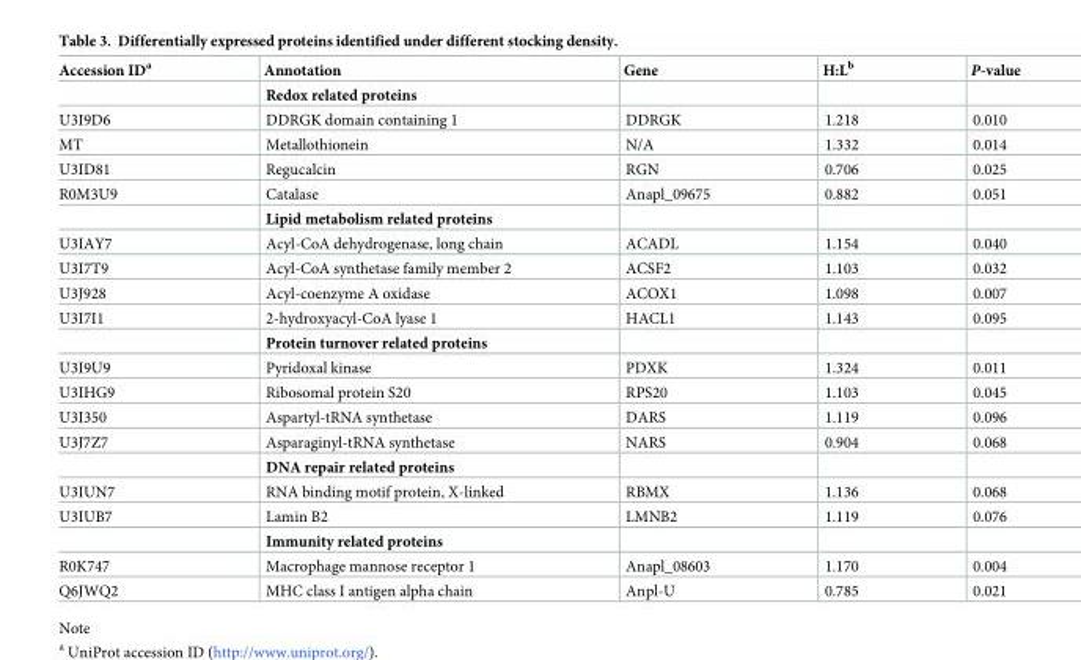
<table><thead><tr><td>Accession ID<sup>a</sup></td><td>Annotation</td><td>Gene</td><td>H:L<sup>b</sup></td><td>P-value</td></tr></thead><tbody><tr><td></td><td>Redox related proteins</td><td></td><td></td><td></td></tr><tr><td>U3I9D6</td><td>DDRGK domain containing 1</td><td>DDRGK</td><td>1.218</td><td>0.010</td></tr><tr><td>MT</td><td>Metallothionein</td><td>N/A</td><td>1.332</td><td>0.014</td></tr><tr><td>U3ID81</td><td>Regucalcin</td><td>RGN</td><td>0.706</td><td>0.025</td></tr><tr><td rowspan="2">R0M3U9</td><td>Catalase</td><td>Anapl_09675</td><td>0.882</td><td>0.051</td></tr><tr><td>Lipid metabolism related proteins</td><td></td><td></td><td></td></tr><tr><td>U3IAY7</td><td>Acyl-CoA dehydrogenase, long chain</td><td>ACADL</td><td>1.154</td><td>0.040</td></tr><tr><td>U3I7T9</td><td>Acyl-CoA synthetase family member 2</td><td>ACSF2</td><td>1.103</td><td>0.032</td></tr><tr><td>U3J928</td><td>Acyl-coenzyme A oxidase</td><td>ACOX1</td><td>1.098</td><td>0.007</td></tr><tr><td rowspan="2">U3I7I1</td><td>2-hydroxyacyl-CoA lyase 1</td><td>HACL1</td><td>1.143</td><td>0.095</td></tr><tr><td>Protein turnover related proteins</td><td></td><td></td><td></td></tr><tr><td>U3I9U9</td><td>Pyridoxal kinase</td><td>PDXK</td><td>1.324</td><td>0.011</td></tr><tr><td>U3IHG9</td><td>Ribosomal protein S20</td><td>RPS20</td><td>1.103</td><td>0.045</td></tr><tr><td>U3I350</td><td>Aspartyl-tRNA synthetase</td><td>DARS</td><td>1.119</td><td>0.096</td></tr><tr><td rowspan="2">U3J7Z7</td><td>Asparaginyl-tRNA synthetase</td><td>NARS</td><td>0.904</td><td>0.068</td></tr><tr><td>DNA repair related proteins</td><td></td><td></td><td></td></tr><tr><td>U3IUN7</td><td>RNA binding motif protein, X-linked</td><td>RBMX</td><td>1.136</td><td>0.068</td></tr><tr><td rowspan="2">U3IUB7</td><td>Lamin B2</td><td>LMNB2</td><td>1.119</td><td>0.076</td></tr><tr><td>Immunity related proteins</td><td></td><td></td><td></td></tr><tr><td>R0K747</td><td>Macrophage mannose receptor 1</td><td>Anapl_08603</td><td>1.170</td><td>0.004</td></tr><tr><td>Q6JWQ2</td><td>MHC class I antigen alpha chain</td><td>Anpl-U</td><td>0.785</td><td>0.021</td></tr></tbody></table>